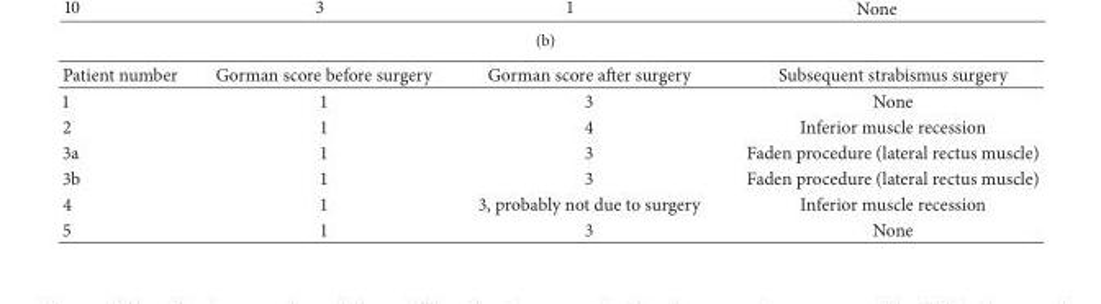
<table><thead><tr><td>Patient number</td><td>Gorman score before surgery</td><td>Gorman score after surgery</td><td>Subsequent strabismus surgery</td></tr></thead><tbody><tr><td>1</td><td>1</td><td>3</td><td>None</td></tr><tr><td>2</td><td>1</td><td>4</td><td>Inferior muscle recession</td></tr><tr><td>3a</td><td>1</td><td>3</td><td>Faden procedure (lateral rectus muscle)</td></tr><tr><td>3b</td><td>1</td><td>3</td><td>Faden procedure (lateral rectus muscle)</td></tr><tr><td>4</td><td>1</td><td>3, probably not due to surgery</td><td>Inferior muscle recession</td></tr><tr><td>5</td><td>1</td><td>3</td><td>None</td></tr></tbody></table>